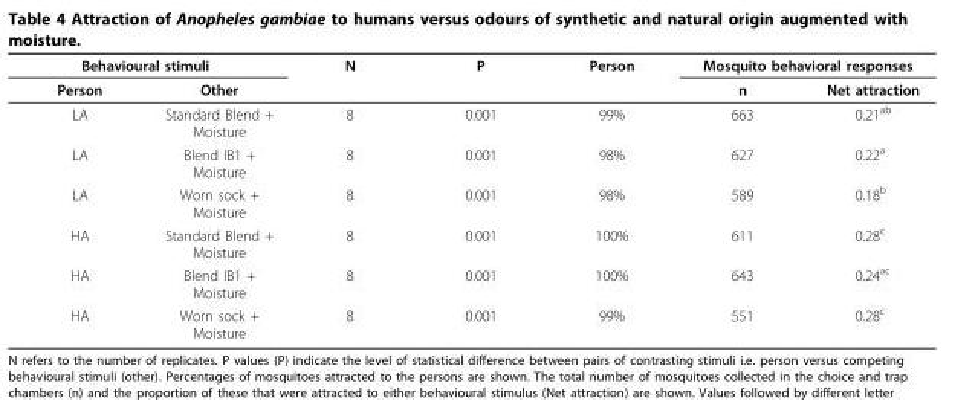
<table><thead><tr><td colspan="2">Behavioural stimuli</td><td rowspan="2">N</td><td rowspan="2">P</td><td rowspan="2">Person</td><td colspan="2">Mosquito behavioral responses</td></tr><tr><td>Person</td><td>Other</td><td>n</td><td>Net attraction</td></tr></thead><tbody><tr><td>LA</td><td>Standard Blend + Moisture</td><td>8</td><td>0.001</td><td>99%</td><td>663</td><td>0.21<sup>ab</sup></td></tr><tr><td>LA</td><td>Blend IB1 + Moisture</td><td>8</td><td>0.001</td><td>98%</td><td>627</td><td>0.22<sup>a</sup></td></tr><tr><td>LA</td><td>Worn sock + Moisture</td><td>8</td><td>0.001</td><td>98%</td><td>589</td><td>0.18<sup>b</sup></td></tr><tr><td>HA</td><td>Standard Blend + Moisture</td><td>8</td><td>0.001</td><td>100%</td><td>611</td><td>0.28<sup>c</sup></td></tr><tr><td>HA</td><td>Blend IB1 + Moisture</td><td>8</td><td>0.001</td><td>100%</td><td>643</td><td>0.24<sup>ac</sup></td></tr><tr><td>HA</td><td>Worn sock + Moisture</td><td>8</td><td>0.001</td><td>99%</td><td>551</td><td>0.28<sup>c</sup></td></tr></tbody></table>